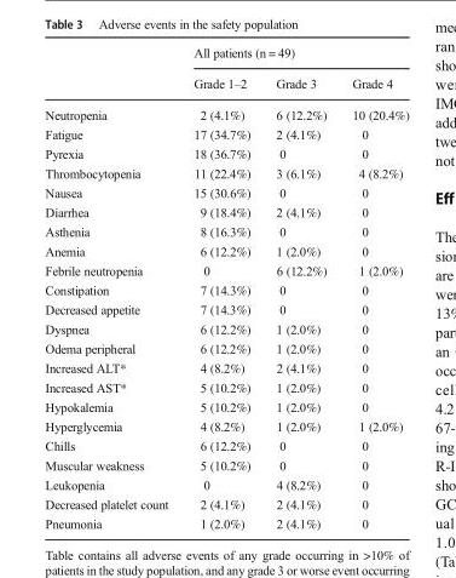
<table><thead><tr><td rowspan="2"></td><td colspan="3">All patients (n = 49)</td></tr><tr><td>Grade 1–2</td><td>Grade 3</td><td>Grade 4</td></tr></thead><tbody><tr><td>Neutropenia</td><td>2 (4.1%)</td><td>6 (12.2%)</td><td>10 (20.4%)</td></tr><tr><td>Fatigue</td><td>17 (34.7%)</td><td>2 (4.1%)</td><td>0</td></tr><tr><td>Pyrexia</td><td>18 (36.7%)</td><td>0</td><td>0</td></tr><tr><td>Thrombocytopenia</td><td>11 (22.4%)</td><td>3 (6.1%)</td><td>4 (8.2%)</td></tr><tr><td>Nausea</td><td>15 (30.6%)</td><td>0</td><td>0</td></tr><tr><td>Diarrhea</td><td>9 (18.4%)</td><td>2 (4.1%)</td><td>0</td></tr><tr><td>Asthenia</td><td>8 (16.3%)</td><td>0</td><td>0</td></tr><tr><td>Anemia</td><td>6 (12.2%)</td><td>1 (2.0%)</td><td>0</td></tr><tr><td>Febrile neutropenia</td><td>0</td><td>6 (12.2%)</td><td>1 (2.0%)</td></tr><tr><td>Constipation</td><td>7 (14.3%)</td><td>0</td><td>0</td></tr><tr><td>Decreased appetite</td><td>7 (14.3%)</td><td>0</td><td>0</td></tr><tr><td>Dyspnea</td><td>6 (12.2%)</td><td>1 (2.0%)</td><td>0</td></tr><tr><td>Odema peripheral</td><td>6 (12.2%)</td><td>1 (2.0%)</td><td>0</td></tr><tr><td>Increased ALT*</td><td>4 (8.2%)</td><td>2 (4.1%)</td><td>0</td></tr><tr><td>Increased AST*</td><td>5 (10.2%)</td><td>1 (2.0%)</td><td>0</td></tr><tr><td>Hypokalemia</td><td>5 (10.2%)</td><td>1 (2.0%)</td><td>0</td></tr><tr><td>Hyperglycemia</td><td>4 (8.2%)</td><td>1 (2.0%)</td><td>1 (2.0%)</td></tr><tr><td>Chills</td><td>6 (12.2%)</td><td>0</td><td>0</td></tr><tr><td>Muscular weakness</td><td>5 (10.2%)</td><td>0</td><td>0</td></tr><tr><td>Leukopenia</td><td>0</td><td>4 (8.2%)</td><td>0</td></tr><tr><td>Decreased platelet count</td><td>2 (4.1%)</td><td>2 (4.1%)</td><td>0</td></tr><tr><td>Pneumonia</td><td>1 (2.0%)</td><td>2 (4.1%)</td><td>0</td></tr></tbody></table>